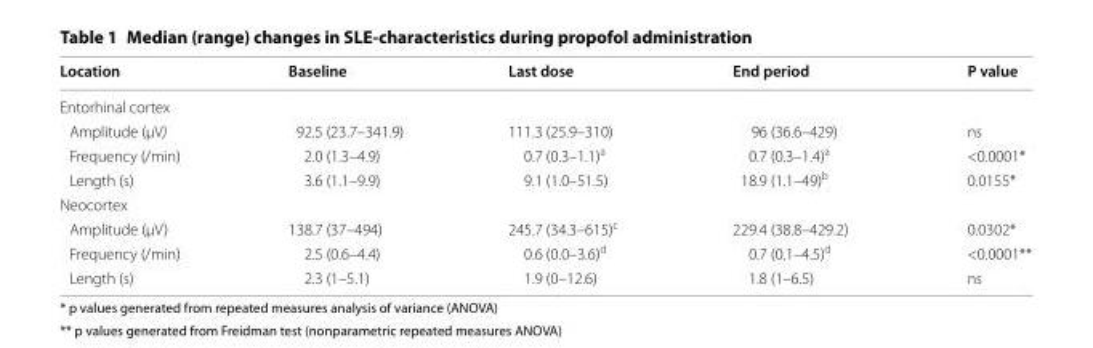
<table><thead><tr><td>Location</td><td>Baseline</td><td>Last dose</td><td>End period</td><td>P value</td></tr></thead><tbody><tr><td colspan="5">Entorhinal cortex</td></tr><tr><td>Amplitude (µV)</td><td>92.5 (23.7–341.9)</td><td>111.3 (25.9–310)</td><td>96 (36.6–429)</td><td>ns</td></tr><tr><td>Frequency (/min)</td><td>2.0 (1.3–4.9)</td><td>0.7 (0.3–1.1)<sup>a</sup></td><td>0.7 (0.3–1.4)<sup>a</sup></td><td>&lt;0.0001*</td></tr><tr><td>Length (s)</td><td>3.6 (1.1–9.9)</td><td>9.1 (1.0–51.5)</td><td>18.9 (1.1–49)<sup>b</sup></td><td>0.0155*</td></tr><tr><td colspan="5">Neocortex</td></tr><tr><td>Amplitude (µV)</td><td>138.7 (37–494)</td><td>245.7 (34.3–615)<sup>c</sup></td><td>229.4 (38.8–429.2)</td><td>0.0302*</td></tr><tr><td>Frequency (/min)</td><td>2.5 (0.6–4.4)</td><td>0.6 (0.0–3.6)<sup>d</sup></td><td>0.7 (0.1–4.5)<sup>d</sup></td><td>&lt;0.0001**</td></tr><tr><td>Length (s)</td><td>2.3 (1–5.1)</td><td>1.9 (0–12.6)</td><td>1.8 (1–6.5)</td><td>ns</td></tr></tbody></table>